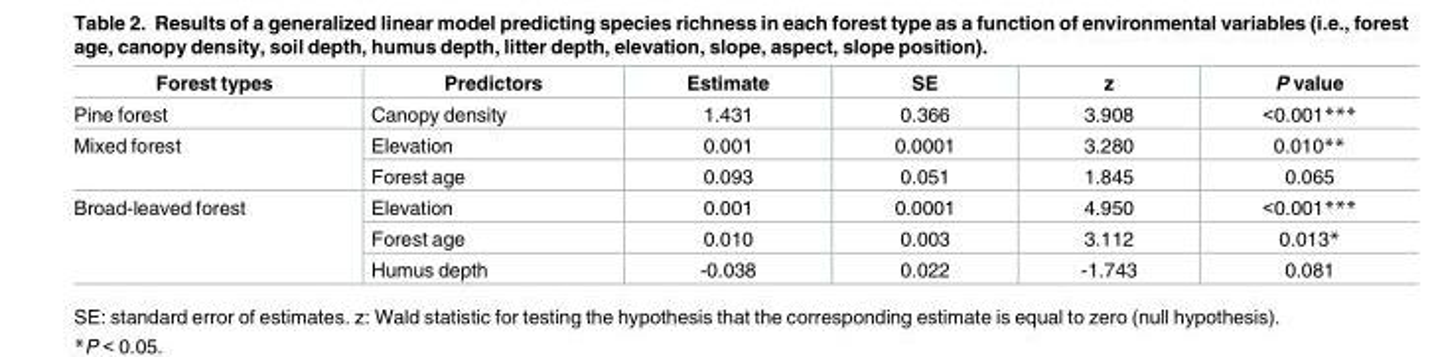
<table><thead><tr><td>Forest types</td><td>Predictors</td><td>Estimate</td><td>SE</td><td>z</td><td>P value</td></tr></thead><tbody><tr><td>Pine forest</td><td>Canopy density</td><td>1.431</td><td>0.366</td><td>3.908</td><td>&lt;0.001***</td></tr><tr><td rowspan="2">Mixed forest</td><td>Elevation</td><td>0.001</td><td>0.0001</td><td>3.280</td><td>0.010**</td></tr><tr><td>Forest age</td><td>0.093</td><td>0.051</td><td>1.845</td><td>0.065</td></tr><tr><td rowspan="3">Broad-leaved forest</td><td>Elevation</td><td>0.001</td><td>0.0001</td><td>4.950</td><td>&lt;0.001***</td></tr><tr><td>Forest age</td><td>0.010</td><td>0.003</td><td>3.112</td><td>0.013*</td></tr><tr><td>Humus depth</td><td>-0.038</td><td>0.022</td><td>-1.743</td><td>0.081</td></tr></tbody></table>